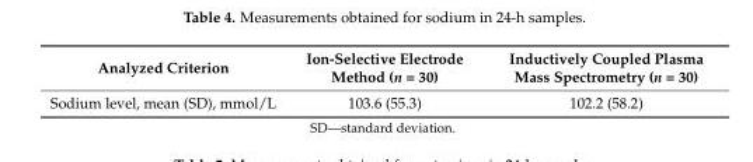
<table><thead><tr><td>Analyzed Criterion</td><td>Ion-Selective Electrode Method (n = 30)</td><td>Inductively Coupled Plasma Mass Spectrometry (n = 30)</td></tr></thead><tbody><tr><td>Sodium level, mean (SD), mmol/L</td><td>103.6 (55.3)</td><td>102.2 (58.2)</td></tr></tbody></table>